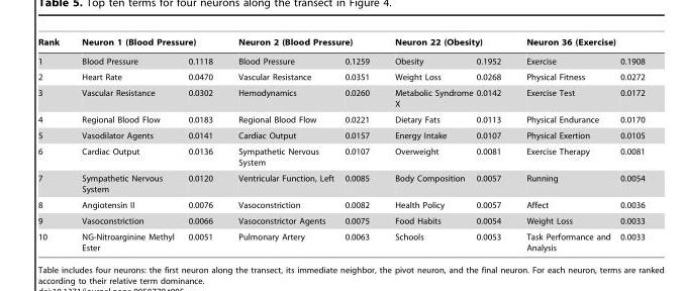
<table><thead><tr><td rowspan="2">Rank 1</td><td colspan="2">Neuron 1 (Blood Pressure)</td><td colspan="2">Neuron 2 (Blood Pressure)</td><td colspan="2">Neuron 22 (Obesity)</td><td colspan="2">Neuron 36 (Exercise)</td></tr><tr><td>Blood Pressure</td><td>0.1118</td><td>Blood Pressure</td><td>0.1259</td><td>Obesity</td><td>0.1952</td><td>Exercise</td><td>0.1908</td></tr></thead><tbody><tr><td>2</td><td>Heart Rate</td><td>0.0470</td><td>Vascular Resistance</td><td>0.0351</td><td>Weight Loss</td><td>0.0268</td><td>Physical Fitness</td><td>0.0272</td></tr><tr><td>3</td><td>Vascular Resistance</td><td>0.0302</td><td>Hemodynamics</td><td>0.0260</td><td>Metabolic Syndrome X</td><td>0.0142</td><td>Exercise Test</td><td>0.0172</td></tr><tr><td>4</td><td>Regional Blood Flow</td><td>0.0183</td><td>Regional Blood Flow</td><td>0.0221</td><td>Dietary Fats</td><td>0.0113</td><td>Physical Endurance</td><td>0.0170</td></tr><tr><td>5</td><td>Vasodilator Agents</td><td>0.0141</td><td>Cardiac Output</td><td>0.0157</td><td>Energy Intake</td><td>0.0107</td><td>Physical Exertion</td><td>0.0105</td></tr><tr><td>6</td><td>Cardiac Output</td><td>0.0136</td><td>Sympathetic Nervous System</td><td>0.0107</td><td>Overweight</td><td>0.0081</td><td>Exercise Therapy</td><td>0.0081</td></tr><tr><td>7</td><td>Sympathetic Nervous System</td><td>0.0120</td><td>Ventricular Function, Left</td><td>0.0085</td><td>Body Composition</td><td>0.0057</td><td>Running</td><td>0.0054</td></tr><tr><td>8</td><td>Angiotensin II</td><td>0.0076</td><td>Vasoconstriction</td><td>0.0082</td><td>Health Policy</td><td>0.0057</td><td>Affect</td><td>0.0036</td></tr><tr><td>9</td><td>Vasoconstriction</td><td>0.0066</td><td>Vasoconstrictor Agents</td><td>0.0075</td><td>Food Habits</td><td>0.0054</td><td>Weight Loss</td><td>0.0033</td></tr><tr><td>10</td><td>NG-Nitroarginine Methyl Ester</td><td>0.0051</td><td>Pulmonary Artery</td><td>0.0063</td><td>Schools</td><td>0.0053</td><td>Task Performance and Analysis</td><td>0.0033</td></tr></tbody></table>